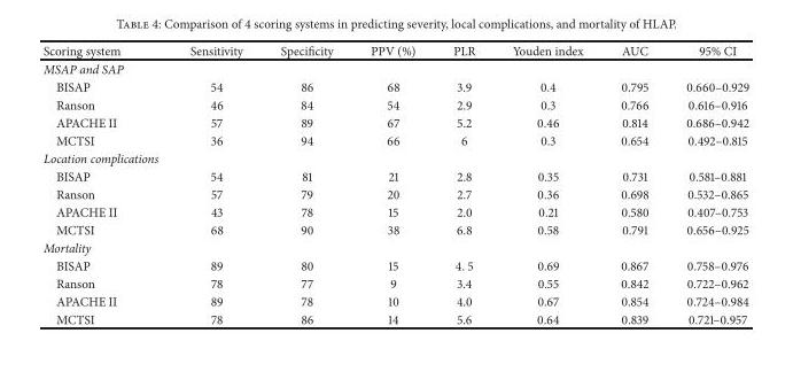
<table><thead><tr><td>Scoring system</td><td>Sensitivity</td><td>Specificity</td><td>PPV (%)</td><td>PLR</td><td>Youden index</td><td>AUC</td><td>95% CI</td></tr></thead><tbody><tr><td colspan="8">MSAP and SAP</td></tr><tr><td>BISAP</td><td>54</td><td>86</td><td>68</td><td>3.9</td><td>0.4</td><td>0.795</td><td>0.660–0.929</td></tr><tr><td>Ranson</td><td>46</td><td>84</td><td>54</td><td>2.9</td><td>0.3</td><td>0.766</td><td>0.616–0.916</td></tr><tr><td>APACHE II</td><td>57</td><td>89</td><td>67</td><td>5.2</td><td>0.46</td><td>0.814</td><td>0.686–0.942</td></tr><tr><td>MCTSI</td><td>36</td><td>94</td><td>66</td><td>6</td><td>0.3</td><td>0.654</td><td>0.492–0.815</td></tr><tr><td colspan="8">Location complications</td></tr><tr><td>BISAP</td><td>54</td><td>81</td><td>21</td><td>2.8</td><td>0.35</td><td>0.731</td><td>0.581–0.881</td></tr><tr><td>Ranson</td><td>57</td><td>79</td><td>20</td><td>2.7</td><td>0.36</td><td>0.698</td><td>0.532–0.865</td></tr><tr><td>APACHE II</td><td>43</td><td>78</td><td>15</td><td>2.0</td><td>0.21</td><td>0.580</td><td>0.407–0.753</td></tr><tr><td>MCTSI</td><td>68</td><td>90</td><td>38</td><td>6.8</td><td>0.58</td><td>0.791</td><td>0.656–0.925</td></tr><tr><td colspan="8">Mortality</td></tr><tr><td>BISAP</td><td>89</td><td>80</td><td>15</td><td>4. 5</td><td>0.69</td><td>0.867</td><td>0.758–0.976</td></tr><tr><td>Ranson</td><td>78</td><td>77</td><td>9</td><td>3.4</td><td>0.55</td><td>0.842</td><td>0.722–0.962</td></tr><tr><td>APACHE II</td><td>89</td><td>78</td><td>10</td><td>4.0</td><td>0.67</td><td>0.854</td><td>0.724–0.984</td></tr><tr><td>MCTSI</td><td>78</td><td>86</td><td>14</td><td>5.6</td><td>0.64</td><td>0.839</td><td>0.721–0.957</td></tr></tbody></table>